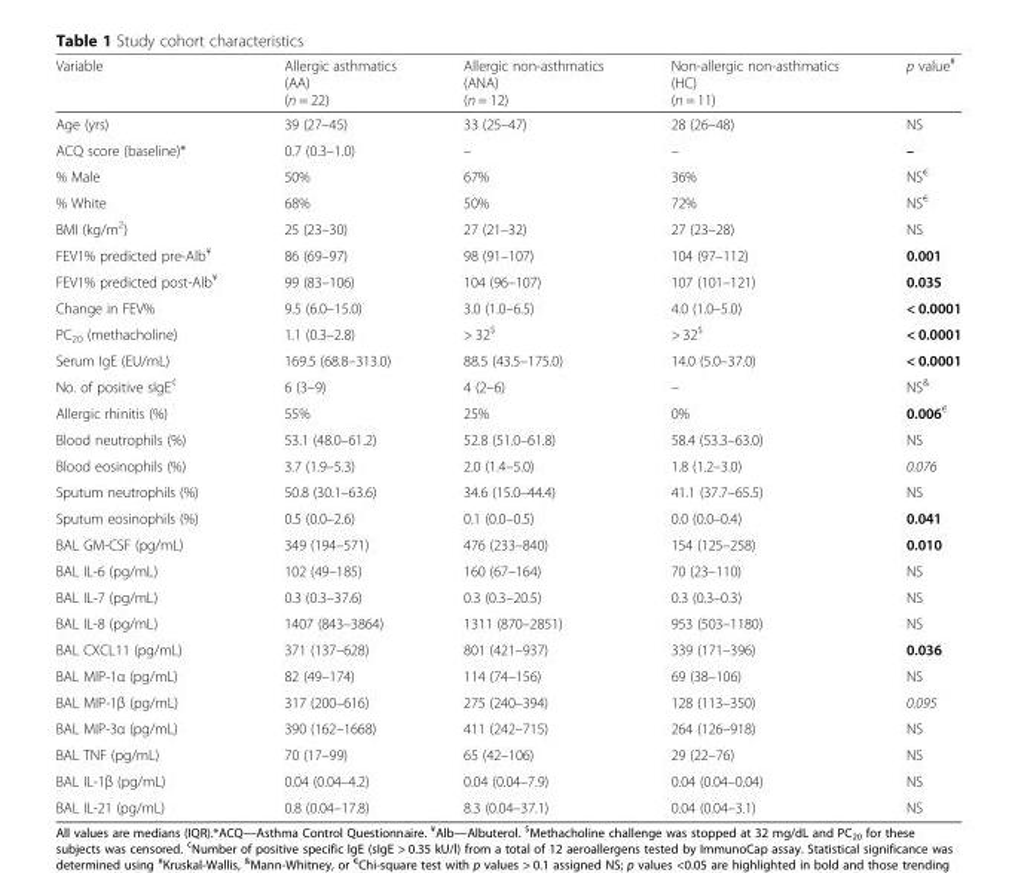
<table><thead><tr><td>Variable</td><td>Allergic asthmatics (AA) (n = 22)</td><td>Allergic non-asthmatics (ANA) (n = 12)</td><td>Non-allergic non-asthmatics (HC) (n = 11)</td><td>p value<sup>#</sup></td></tr></thead><tbody><tr><td>Age (yrs)</td><td>39 (27–45)</td><td>33 (25–47)</td><td>28 (26–48)</td><td>NS</td></tr><tr><td>ACQ score (baseline)*</td><td>0.7 (0.3–1.0)</td><td>–</td><td>–</td><td>–</td></tr><tr><td>% Male</td><td>50%</td><td>67%</td><td>36%</td><td>NS<sup>€</sup></td></tr><tr><td>% White</td><td>68%</td><td>50%</td><td>72%</td><td>NS<sup>€</sup></td></tr><tr><td>BMI (kg/m<sup>2</sup>)</td><td>25 (23–30)</td><td>27 (21–32)</td><td>27 (23–28)</td><td>NS</td></tr><tr><td>FEV1% predicted pre-Alb<sup>¥</sup></td><td>86 (69–97)</td><td>98 (91–107)</td><td>104 (97–112)</td><td>0.001</td></tr><tr><td>FEV1% predicted post-Alb<sup>¥</sup></td><td>99 (83–106)</td><td>104 (96–107)</td><td>107 (101–121)</td><td>0.035</td></tr><tr><td>Change in FEV%</td><td>9.5 (6.0–15.0)</td><td>3.0 (1.0–6.5)</td><td>4.0 (1.0–5.0)</td><td>&lt; 0.0001</td></tr><tr><td>PC<sub>20</sub> (methacholine)</td><td>1.1 (0.3–2.8)</td><td>&gt; 32<sup>$</sup></td><td>&gt; 32<sup>$</sup></td><td>&lt; 0.0001</td></tr><tr><td>Serum IgE (EU/mL)</td><td>169.5 (68.8–313.0)</td><td>88.5 (43.5–175.0)</td><td>14.0 (5.0–37.0)</td><td>&lt; 0.0001</td></tr><tr><td>No. of positive sIgE<sup>¢</sup></td><td>6 (3–9)</td><td>4 (2–6)</td><td>–</td><td>NS<sup>&amp;</sup></td></tr><tr><td>Allergic rhinitis (%)</td><td>55%</td><td>25%</td><td>0%</td><td>0.006<sup>€</sup></td></tr><tr><td>Blood neutrophils (%)</td><td>53.1 (48.0–61.2)</td><td>52.8 (51.0–61.8)</td><td>58.4 (53.3–63.0)</td><td>NS</td></tr><tr><td>Blood eosinophils (%)</td><td>3.7 (1.9–5.3)</td><td>2.0 (1.4–5.0)</td><td>1.8 (1.2–3.0)</td><td>0.076</td></tr><tr><td>Sputum neutrophils (%)</td><td>50.8 (30.1–63.6)</td><td>34.6 (15.0–44.4)</td><td>41.1 (37.7–65.5)</td><td>NS</td></tr><tr><td>Sputum eosinophils (%)</td><td>0.5 (0.0–2.6)</td><td>0.1 (0.0–0.5)</td><td>0.0 (0.0–0.4)</td><td>0.041</td></tr><tr><td>BAL GM-CSF (pg/mL)</td><td>349 (194–571)</td><td>476 (233–840)</td><td>154 (125–258)</td><td>0.010</td></tr><tr><td>BAL IL-6 (pg/mL)</td><td>102 (49–185)</td><td>160 (67–164)</td><td>70 (23–110)</td><td>NS</td></tr><tr><td>BAL IL-7 (pg/mL)</td><td>0.3 (0.3–37.6)</td><td>0.3 (0.3–20.5)</td><td>0.3 (0.3–0.3)</td><td>NS</td></tr><tr><td>BAL IL-8 (pg/mL)</td><td>1407 (843–3864)</td><td>1311 (870–2851)</td><td>953 (503–1180)</td><td>NS</td></tr><tr><td>BAL CXCL11 (pg/mL)</td><td>371 (137–628)</td><td>801 (421–937)</td><td>339 (171–396)</td><td>0.036</td></tr><tr><td>BAL MIP-1α (pg/mL)</td><td>82 (49–174)</td><td>114 (74–156)</td><td>69 (38–106)</td><td>NS</td></tr><tr><td>BAL MIP-1β (pg/mL)</td><td>317 (200–616)</td><td>275 (240–394)</td><td>128 (113–350)</td><td>0.095</td></tr><tr><td>BAL MIP-3α (pg/mL)</td><td>390 (162–1668)</td><td>411 (242–715)</td><td>264 (126–918)</td><td>NS</td></tr><tr><td>BAL TNF (pg/mL)</td><td>70 (17–99)</td><td>65 (42–106)</td><td>29 (22–76)</td><td>NS</td></tr><tr><td>BAL IL-1β (pg/mL)</td><td>0.04 (0.04–4.2)</td><td>0.04 (0.04–7.9)</td><td>0.04 (0.04–0.04)</td><td>NS</td></tr><tr><td>BAL IL-21 (pg/mL)</td><td>0.8 (0.04–17.8)</td><td>8.3 (0.04–37.1)</td><td>0.04 (0.04–3.1)</td><td>NS</td></tr></tbody></table>